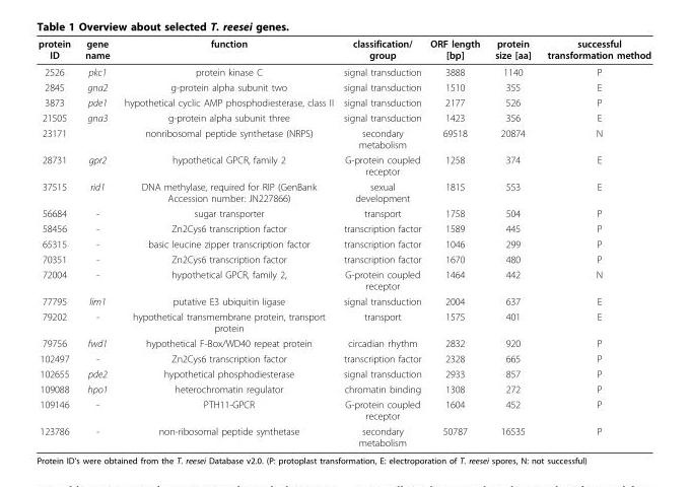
<table><thead><tr><td>protein ID</td><td>gene name</td><td>function</td><td>classification/ group</td><td>ORF length [bp]</td><td>protein size [aa]</td><td>successful transformation method</td></tr></thead><tbody><tr><td>2526</td><td>pkc1</td><td>protein kinase C</td><td>signal transduction</td><td>3888</td><td>1140</td><td>P</td></tr><tr><td>2845</td><td>gna2</td><td>g-protein alpha subunit two</td><td>signal transduction</td><td>1510</td><td>355</td><td>E</td></tr><tr><td>3873</td><td>pde1</td><td>hypothetical cyclic AMP phosphodiesterase, class II</td><td>signal transduction</td><td>2177</td><td>526</td><td>P</td></tr><tr><td>21505</td><td>gna3</td><td>g-protein alpha subunit three</td><td>signal transduction</td><td>1423</td><td>356</td><td>E</td></tr><tr><td>23171</td><td></td><td>nonribosomal peptide synthetase (NRPS)</td><td>secondary metabolism</td><td>69518</td><td>20874</td><td>N</td></tr><tr><td>28731</td><td>gpr2</td><td>hypothetical GPCR, family 2</td><td>G-protein coupled receptor</td><td>1258</td><td>374</td><td>E</td></tr><tr><td>37515</td><td>rid1</td><td>DNA methylase, required for RIP (GenBank Accession number: JN227866)</td><td>sexual development</td><td>1815</td><td>553</td><td>E</td></tr><tr><td>56684</td><td>-</td><td>sugar transporter</td><td>transport</td><td>1758</td><td>504</td><td>P</td></tr><tr><td>58456</td><td>-</td><td>Zn2Cys6 transcription factor</td><td>transcription factor</td><td>1589</td><td>445</td><td>P</td></tr><tr><td>65315</td><td>-</td><td>basic leucine zipper transcription factor</td><td>transcription factor</td><td>1046</td><td>299</td><td>P</td></tr><tr><td>70351</td><td>-</td><td>Zn2Cys6 transcription factor</td><td>transcription factor</td><td>1670</td><td>480</td><td>P</td></tr><tr><td>72004</td><td>-</td><td>hypothetical GPCR, family 2,</td><td>G-protein coupled receptor</td><td>1464</td><td>442</td><td>N</td></tr><tr><td>77795</td><td>lim1</td><td>putative E3 ubiquitin ligase</td><td>signal transduction</td><td>2004</td><td>637</td><td>E</td></tr><tr><td>79202</td><td>-</td><td>hypothetical transmembrane protein, transport protein</td><td>transport</td><td>1575</td><td>401</td><td>E</td></tr><tr><td>79756</td><td>fwd1</td><td>hypothetical F-Box/WD40 repeat protein</td><td>circadian rhythm</td><td>2832</td><td>920</td><td>P</td></tr><tr><td>102497</td><td>-</td><td>Zn2Cys6 transcription factor</td><td>transcription factor</td><td>2328</td><td>665</td><td>P</td></tr><tr><td>102655</td><td>pde2</td><td>hypothetical phosphodiesterase</td><td>signal transduction</td><td>2933</td><td>857</td><td>P</td></tr><tr><td>109088</td><td>hpo1</td><td>heterochromatin regulator</td><td>chromatin binding</td><td>1308</td><td>272</td><td>P</td></tr><tr><td>109146</td><td>-</td><td>PTH11-GPCR</td><td>G-protein coupled receptor</td><td>1604</td><td>452</td><td>P</td></tr><tr><td>123786</td><td>-</td><td>non-ribosomal peptide synthetase</td><td>secondary metabolism</td><td>50787</td><td>16535</td><td>P</td></tr></tbody></table>